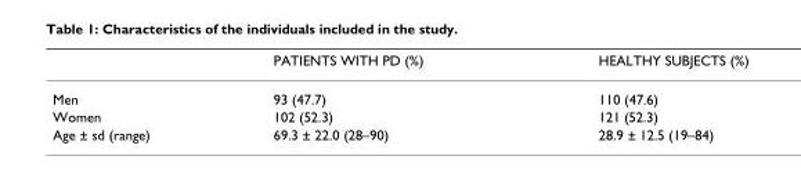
<table><thead><tr><td></td><td>PATIENTS WITH PD (%)</td><td>HEALTHY SUBJECTS (%)</td></tr></thead><tbody><tr><td>Men</td><td>93 (47.7)</td><td>110 (47.6)</td></tr><tr><td>Women</td><td>102 (52.3)</td><td>121 (52.3)</td></tr><tr><td>Age ± sd (range)</td><td>69.3 ± 22.0 (28–90)</td><td>28.9 ± 12.5 (19–84)</td></tr></tbody></table>